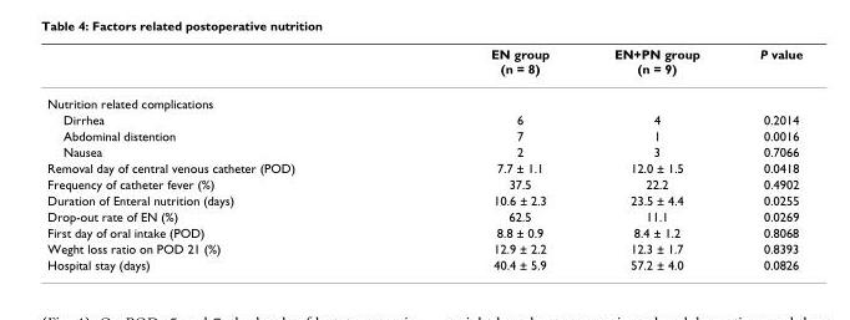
<table><thead><tr><td></td><td>EN group (n = 8)</td><td>EN+PN group (n = 9)</td><td>P value</td></tr></thead><tbody><tr><td colspan="4">Nutrition related complications</td></tr><tr><td>Dirrhea</td><td>6</td><td>4</td><td>0.2014</td></tr><tr><td>Abdominal distention</td><td>7</td><td>1</td><td>0.0016</td></tr><tr><td>Nausea</td><td>2</td><td>3</td><td>0.7066</td></tr><tr><td>Removal day of central venous catheter (POD)</td><td>7.7 ± 1.1</td><td>12.0 ± 1.5</td><td>0.0418</td></tr><tr><td>Frequency of catheter fever (%)</td><td>37.5</td><td>22.2</td><td>0.4902</td></tr><tr><td>Duration of Enteral nutrition (days)</td><td>10.6 ± 2.3</td><td>23.5 ± 4.4</td><td>0.0255</td></tr><tr><td>Drop-out rate of EN (%)</td><td>62.5</td><td>11.1</td><td>0.0269</td></tr><tr><td>First day of oral intake (POD)</td><td>8.8 ± 0.9</td><td>8.4 ± 1.2</td><td>0.8068</td></tr><tr><td>Weght loss ratio on POD 21 (%)</td><td>12.9 ± 2.2</td><td>12.3 ± 1.7</td><td>0.8393</td></tr><tr><td>Hospital stay (days)</td><td>40.4 ± 5.9</td><td>57.2 ± 4.0</td><td>0.0826</td></tr></tbody></table>